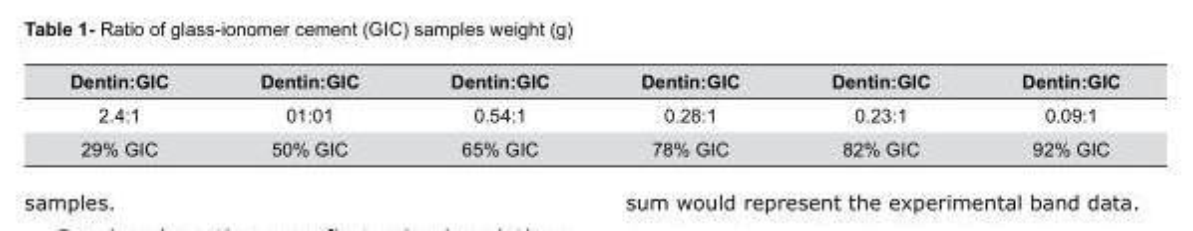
<table><thead><tr><td>Dentin:GIC</td><td>Dentin:GIC</td><td>Dentin:GIC</td><td>Dentin:GIC</td><td>Dentin:GIC</td><td>Dentin:GIC</td></tr></thead><tbody><tr><td>2.4:1</td><td>01:01</td><td>0.54:1</td><td>0.28:1</td><td>0.23:1</td><td>0.09:1</td></tr><tr><td>29% GIC</td><td>50% GIC</td><td>65% GIC</td><td>78% GIC</td><td>82% GIC</td><td>92% GIC</td></tr></tbody></table>